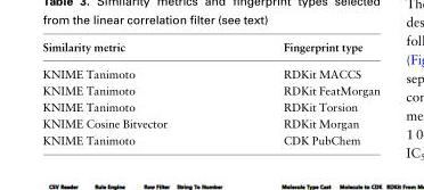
<table><thead><tr><td>Similarity metric</td><td>Fingerprint type</td></tr></thead><tbody><tr><td>KNIME Tanimoto</td><td>RDKit MACCS</td></tr><tr><td>KNIME Tanimoto</td><td>RDKit FeatMorgan</td></tr><tr><td>KNIME Tanimoto</td><td>RDKit Torsion</td></tr><tr><td>KNIME Cosine Bitvector</td><td>RDKit Morgan</td></tr><tr><td>KNIME Tanimoto</td><td>CDK PubChem</td></tr></tbody></table>